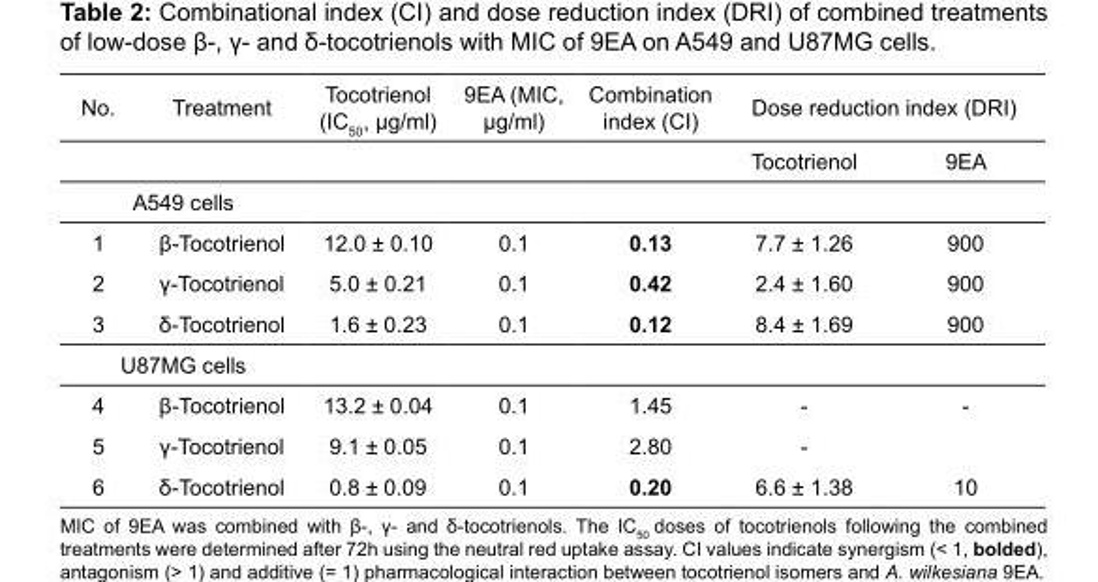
<table><thead><tr><td rowspan="2">No.</td><td rowspan="2">Treatment</td><td rowspan="2">Tocotrienol (IC<sub>50</sub>, µg/ml)</td><td rowspan="2">9EA (MIC, µg/ml)</td><td rowspan="2">Combination index (CI)</td><td colspan="2">Dose reduction index (DRI)</td></tr><tr><td>Tocotrienol</td><td>9EA</td></tr></thead><tbody><tr><td colspan="7">A549 cells</td></tr><tr><td>1</td><td>β-Tocotrienol</td><td>12.0 ± 0.10</td><td>0.1</td><td>0.13</td><td>7.7 ± 1.26</td><td>900</td></tr><tr><td>2</td><td>γ-Tocotrienol</td><td>5.0 ± 0.21</td><td>0.1</td><td>0.42</td><td>2.4 ± 1.60</td><td>900</td></tr><tr><td>3</td><td>δ-Tocotrienol</td><td>1.6 ± 0.23</td><td>0.1</td><td>0.12</td><td>8.4 ± 1.69</td><td>900</td></tr><tr><td colspan="7">U87MG cells</td></tr><tr><td>4</td><td>β-Tocotrienol</td><td>13.2 ± 0.04</td><td>0.1</td><td>1.45</td><td>-</td><td>-</td></tr><tr><td>5</td><td>γ-Tocotrienol</td><td>9.1 ± 0.05</td><td>0.1</td><td>2.80</td><td>-</td><td></td></tr><tr><td>6</td><td>δ-Tocotrienol</td><td>0.8 ± 0.09</td><td>0.1</td><td>0.20</td><td>6.6 ± 1.38</td><td>10</td></tr></tbody></table>